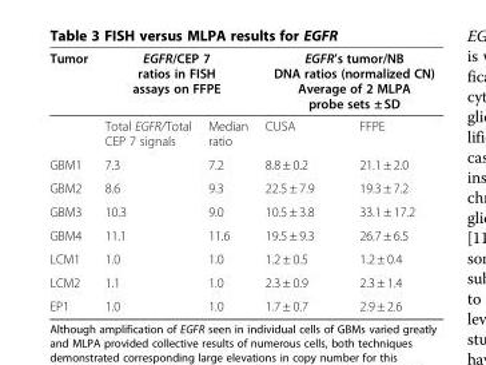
<table><thead><tr><td rowspan="2">Tumor</td><td colspan="2">EGFR/CEP 7 ratios in FISH assays on FFPE</td><td colspan="2">EGFR’s tumor/NB DNA ratios (normalized CN) Average of 2 MLPA probe sets ± SD</td></tr><tr><td>Total EGFR/Total CEP 7 signals</td><td>Median ratio</td><td>CUSA</td><td>FFPE</td></tr></thead><tbody><tr><td>GBM1</td><td>7.3</td><td>7.2</td><td>8.8 ± 0.2</td><td>21.1 ± 2.0</td></tr><tr><td>GBM2</td><td>8.6</td><td>9.3</td><td>22.5 ± 7.9</td><td>19.3 ± 7.2</td></tr><tr><td>GBM3</td><td>10.3</td><td>9.0</td><td>10.5 ± 3.8</td><td>33.1 ± 17.2</td></tr><tr><td>GBM4</td><td>11.1</td><td>11.6</td><td>19.5 ± 9.3</td><td>26.7 ± 6.5</td></tr><tr><td>LCM1</td><td>1.0</td><td>1.0</td><td>1.2 ± 0.5</td><td>1.2 ± 0.4</td></tr><tr><td>LCM2</td><td>1.1</td><td>1.0</td><td>2.3 ± 0.9</td><td>2.3 ± 1.4</td></tr><tr><td>EP1</td><td>1.0</td><td>1.0</td><td>1.7 ± 0.7</td><td>2.9 ± 2.6</td></tr></tbody></table>